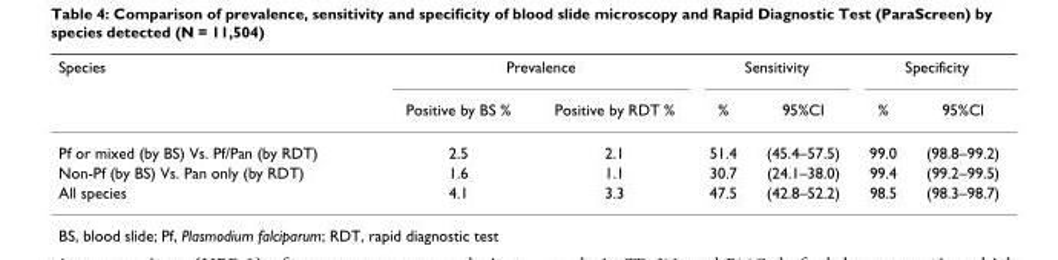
<table><thead><tr><td rowspan="2">Species</td><td colspan="2">Prevalence</td><td colspan="2">Sensitivity</td><td colspan="2">Specificity</td></tr><tr><td>Positive by BS %</td><td>Positive by RDT %</td><td>%</td><td>95%CI</td><td>%</td><td>95%CI</td></tr></thead><tbody><tr><td>Pf or mixed (by BS) Vs. Pf/Pan (by RDT)</td><td>2.5</td><td>2.1</td><td>51.4</td><td>(45.4–57.5)</td><td>99.0</td><td>(98.8–99.2)</td></tr><tr><td>Non-Pf (by BS) Vs. Pan only (by RDT)</td><td>1.6</td><td>1.1</td><td>30.7</td><td>(24.1–38.0)</td><td>99.4</td><td>(99.2–99.5)</td></tr><tr><td>All species</td><td>4.1</td><td>3.3</td><td>47.5</td><td>(42.8–52.2)</td><td>98.5</td><td>(98.3–98.7)</td></tr></tbody></table>